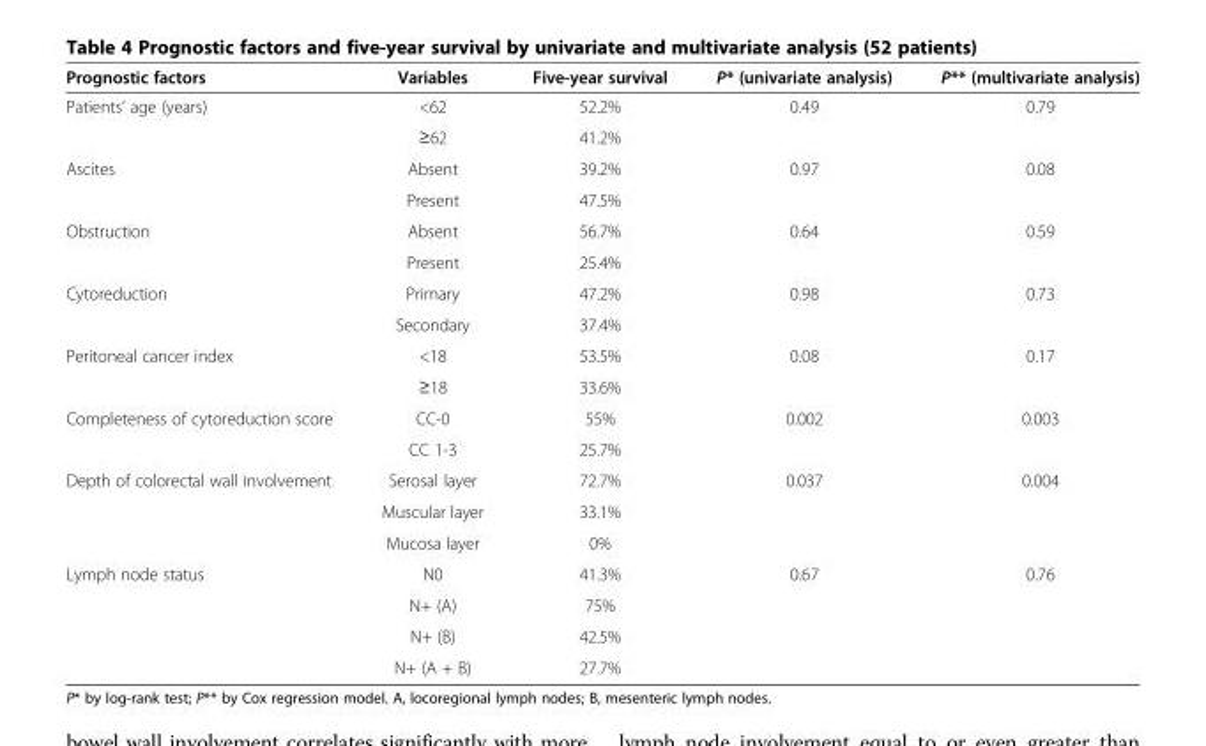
<table><thead><tr><td>Prognostic factors</td><td>Variables</td><td>Five-year survival</td><td>P* (univariate analysis)</td><td>P** (multivariate analysis)</td></tr></thead><tbody><tr><td rowspan="2">Patients’ age (years)</td><td>&lt;62</td><td>52.2%</td><td rowspan="2">0.49</td><td rowspan="2">0.79</td></tr><tr><td>≥62</td><td>41.2%</td></tr><tr><td rowspan="2">Ascites</td><td>Absent</td><td>39.2%</td><td rowspan="2">0.97</td><td rowspan="2">0.08</td></tr><tr><td>Present</td><td>47.5%</td></tr><tr><td rowspan="2">Obstruction</td><td>Absent</td><td>56.7%</td><td rowspan="2">0.64</td><td rowspan="2">0.59</td></tr><tr><td>Present</td><td>25.4%</td></tr><tr><td rowspan="2">Cytoreduction</td><td>Primary</td><td>47.2%</td><td rowspan="2">0.98</td><td rowspan="2">0.73</td></tr><tr><td>Secondary</td><td>37.4%</td></tr><tr><td rowspan="2">Peritoneal cancer index</td><td>&lt;18</td><td>53.5%</td><td rowspan="2">0.08</td><td rowspan="2">0.17</td></tr><tr><td>≥18</td><td>33.6%</td></tr><tr><td rowspan="2">Completeness of cytoreduction score</td><td>CC-0</td><td>55%</td><td rowspan="2">0.002</td><td rowspan="2">0.003</td></tr><tr><td>CC 1-3</td><td>25.7%</td></tr><tr><td rowspan="3">Depth of colorectal wall involvement</td><td>Serosal layer</td><td>72.7%</td><td rowspan="3">0.037</td><td rowspan="3">0.004</td></tr><tr><td>Muscular layer</td><td>33.1%</td></tr><tr><td>Mucosa layer</td><td>0%</td></tr><tr><td rowspan="4">Lymph node status</td><td>N0</td><td>41.3%</td><td rowspan="3">0.67</td><td rowspan="3">0.76</td></tr><tr><td>N+ (A)</td><td>75%</td></tr><tr><td>N+ (B)</td><td>42.5%</td></tr><tr><td>N+ (A + B)</td><td>27.7%</td><td></td><td></td></tr></tbody></table>